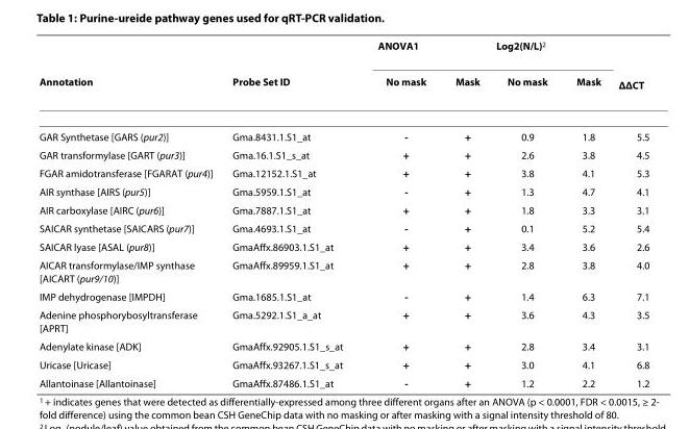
<table><thead><tr><td rowspan="2">Annotation</td><td rowspan="2">Probe Set ID</td><td colspan="2">ANOVA<sup>1</sup></td><td colspan="2">Log<sub>2</sub>(N/L)<sup>2</sup></td><td rowspan="2">ΔΔC<sub>T</sub></td></tr><tr><td>No mask</td><td>Mask</td><td>No mask</td><td>Mask</td></tr></thead><tbody><tr><td>GAR Synthetase [GARS (pur2)]</td><td>Gma.8431.1.S1_at</td><td>-</td><td>+</td><td>0.9</td><td>1.8</td><td>5.5</td></tr><tr><td>GAR transformylase [GART (pur3)]</td><td>Gma.16.1.S1_s_at</td><td>+</td><td>+</td><td>2.6</td><td>3.8</td><td>4.5</td></tr><tr><td>FGAR amidotransferase [FGARAT (pur4)]</td><td>Gma.12152.1.S1_at</td><td>+</td><td>+</td><td>3.8</td><td>4.1</td><td>5.3</td></tr><tr><td>AIR synthase [AIRS (pur5)]</td><td>Gma.5959.1.S1_at</td><td>-</td><td>+</td><td>1.3</td><td>4.7</td><td>4.1</td></tr><tr><td>AIR carboxylase [AIRC (pur6)]</td><td>Gma.7887.1.S1_at</td><td>+</td><td>+</td><td>1.8</td><td>3.3</td><td>3.1</td></tr><tr><td>SAICAR synthetase [SAICARS (pur7)]</td><td>Gma.4693.1.S1_at</td><td>-</td><td>+</td><td>0.1</td><td>5.2</td><td>5.4</td></tr><tr><td>SAICAR lyase [ASAL (pur8)]</td><td>GmaAffx.86903.1.S1_at</td><td>+</td><td>+</td><td>3.4</td><td>3.6</td><td>2.6</td></tr><tr><td>AICAR transformylase/IMP synthase [AICART (pur9/10)]</td><td>GmaAffx.89959.1.S1_at</td><td>+</td><td>+</td><td>2.8</td><td>3.8</td><td>4.0</td></tr><tr><td>IMP dehydrogenase [IMPDH]</td><td>Gma.1685.1.S1_at</td><td>-</td><td>+</td><td>1.4</td><td>6.3</td><td>7.1</td></tr><tr><td>Adenine phosphorybosyltransferase [APRT]</td><td>Gma.5292.1.S1_a_at</td><td>+</td><td>+</td><td>3.6</td><td>4.3</td><td>3.5</td></tr><tr><td>Adenylate kinase [ADK]</td><td>GmaAffx.92905.1.S1_s_at</td><td>+</td><td>+</td><td>2.8</td><td>3.4</td><td>3.1</td></tr><tr><td>Uricase [Uricase]</td><td>GmaAffx.93267.1.S1_s_at</td><td>+</td><td>+</td><td>3.0</td><td>4.1</td><td>6.8</td></tr><tr><td>Allantoinase [Allantoinase]</td><td>GmaAffx.87486.1.S1_at</td><td>-</td><td>+</td><td>1.2</td><td>2.2</td><td>1.2</td></tr></tbody></table>